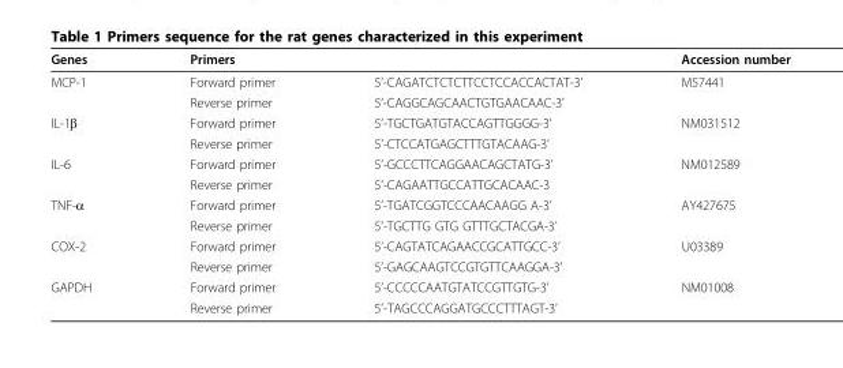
<table><thead><tr><td>Genes</td><td>Primers</td><td></td><td>Accession number</td></tr></thead><tbody><tr><td rowspan="2">MCP-1</td><td>Forward primer</td><td>5’-CAGATCTCTCTTCCTCCACCACTAT-3’</td><td>M57441</td></tr><tr><td>Reverse primer</td><td>5’-CAGGCAGCAACTGTGAACAAC-3’</td><td></td></tr><tr><td rowspan="2">IL-1β</td><td>Forward primer</td><td>5’-TGCTGATGTACCAGTTGGGG-3’</td><td>NM031512</td></tr><tr><td>Reverse primer</td><td>5’-CTCCATGAGCTTTGTACAAG-3’</td><td></td></tr><tr><td rowspan="2">IL-6</td><td>Forward primer</td><td>5’-GCCCTTCAGGAACAGCTATG-3’</td><td>NM012589</td></tr><tr><td>Reverse primer</td><td>5’-CAGAATTGCCATTGCACAAC-3</td><td></td></tr><tr><td rowspan="2">TNF-α</td><td>Forward primer</td><td>5’-TGATCGGTCCCAACAAGG A-3’</td><td>AY427675</td></tr><tr><td>Reverse primer</td><td>5’-TGCTTG GTG GTTTGCTACGA-3’</td><td></td></tr><tr><td rowspan="2">COX-2</td><td>Forward primer</td><td>5’-CAGTATCAGAACCGCATTGCC-3’</td><td>U03389</td></tr><tr><td>Reverse primer</td><td>5’-GAGCAAGTCCGTGTTCAAGGA-3’</td><td></td></tr><tr><td rowspan="2">GAPDH</td><td>Forward primer</td><td>5’-CCCCCAATGTATCCGTTGTG-3’</td><td>NM01008</td></tr><tr><td>Reverse primer</td><td>5’-TAGCCCAGGATGCCCTTTAGT-3’</td><td></td></tr></tbody></table>